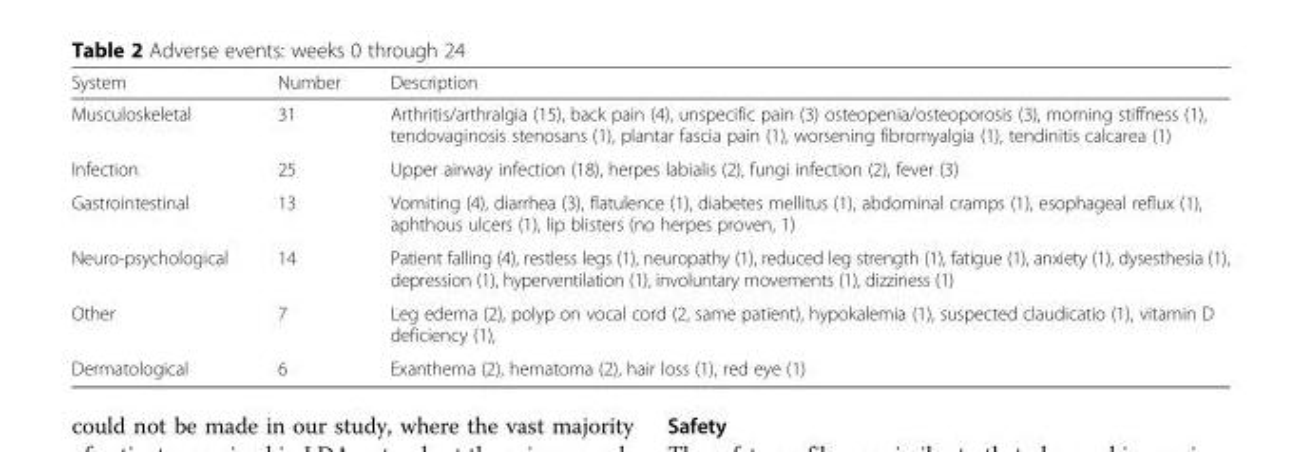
<table><thead><tr><td>System</td><td>Number</td><td>Description</td></tr></thead><tbody><tr><td>Musculoskeletal</td><td>31</td><td>Arthritis/arthralgia (15), back pain (4), unspecific pain (3) osteopenia/osteoporosis (3), morning stiffness (1), tendovaginosis stenosans (1), plantar fascia pain (1), worsening fibromyalgia (1), tendinitis calcarea (1)</td></tr><tr><td>Infection</td><td>25</td><td>Upper airway infection (18), herpes labialis (2), fungi infection (2), fever (3)</td></tr><tr><td>Gastrointestinal</td><td>13</td><td>Vomiting (4), diarrhea (3), flatulence (1), diabetes mellitus (1), abdominal cramps (1), esophageal reflux (1), aphthous ulcers (1), lip blisters (no herpes proven, 1)</td></tr><tr><td>Neuro-psychological</td><td>14</td><td>Patient falling (4), restless legs (1), neuropathy (1), reduced leg strength (1), fatigue (1), anxiety (1), dysesthesia (1), depression (1), hyperventilation (1), involuntary movements (1), dizziness (1)</td></tr><tr><td>Other</td><td>7</td><td>Leg edema (2), polyp on vocal cord (2, same patient), hypokalemia (1), suspected claudicatio (1), vitamin D deficiency (1),</td></tr><tr><td>Dermatological</td><td>6</td><td>Exanthema (2), hematoma (2), hair loss (1), red eye (1)</td></tr></tbody></table>